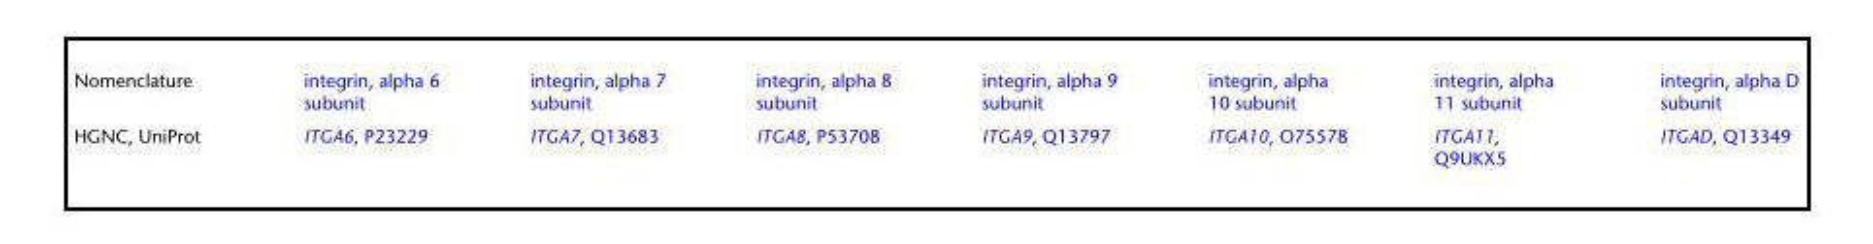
<table><tbody><tr><td>Nomenclature</td><td>integrin, alpha 6 subunit</td><td>integrin, alpha 7 subunit</td><td>integrin, alpha 8 subunit</td><td>integrin, alpha 9 subunit</td><td>integrin, alpha 10 subunit</td><td>integrin, alpha 11 subunit</td><td>integrin, alpha D subunit</td></tr><tr><td>HGNC, UniProt</td><td>ITGA6, P23229</td><td>ITGA7, Q13683</td><td>ITGA8, P53708</td><td>ITGA9, Q13797</td><td>ITGA10, O75578</td><td>ITGA11, Q9UKX5</td><td>ITGAD, Q13349</td></tr></tbody></table>